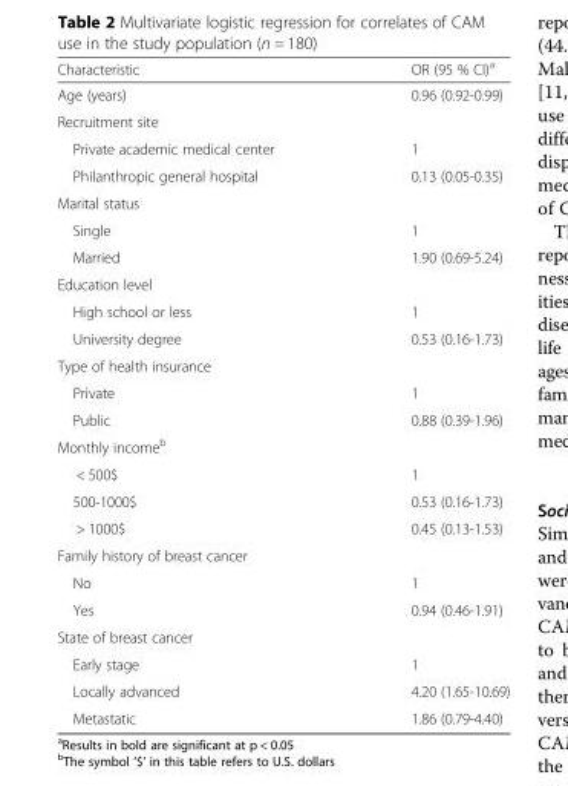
<table><thead><tr><td>Characteristic</td><td>OR (95 % CI)<sup>a</sup></td></tr></thead><tbody><tr><td>Age (years)</td><td>0.96 (0.92-0.99)</td></tr><tr><td colspan="2">Recruitment site</td></tr><tr><td>Private academic medical center</td><td>1</td></tr><tr><td>Philanthropic general hospital</td><td>0.13 (0.05-0.35)</td></tr><tr><td colspan="2">Marital status</td></tr><tr><td>Single</td><td>1</td></tr><tr><td>Married</td><td>1.90 (0.69-5.24)</td></tr><tr><td colspan="2">Education level</td></tr><tr><td>High school or less</td><td>1</td></tr><tr><td>University degree</td><td>0.53 (0.16-1.73)</td></tr><tr><td colspan="2">Type of health insurance</td></tr><tr><td>Private</td><td>1</td></tr><tr><td>Public</td><td>0.88 (0.39-1.96)</td></tr><tr><td colspan="2">Monthly income<sup>b</sup></td></tr><tr><td>&lt; 500$</td><td>1</td></tr><tr><td>500-1000$</td><td>0.53 (0.16-1.73)</td></tr><tr><td>&gt; 1000$</td><td>0.45 (0.13-1.53)</td></tr><tr><td colspan="2">Family history of breast cancer</td></tr><tr><td>No</td><td>1</td></tr><tr><td>Yes</td><td>0.94 (0.46-1.91)</td></tr><tr><td colspan="2">State of breast cancer</td></tr><tr><td>Early stage</td><td>1</td></tr><tr><td>Locally advanced</td><td>4.20 (1.65-10.69)</td></tr><tr><td>Metastatic</td><td>1.86 (0.79-4.40)</td></tr></tbody></table>